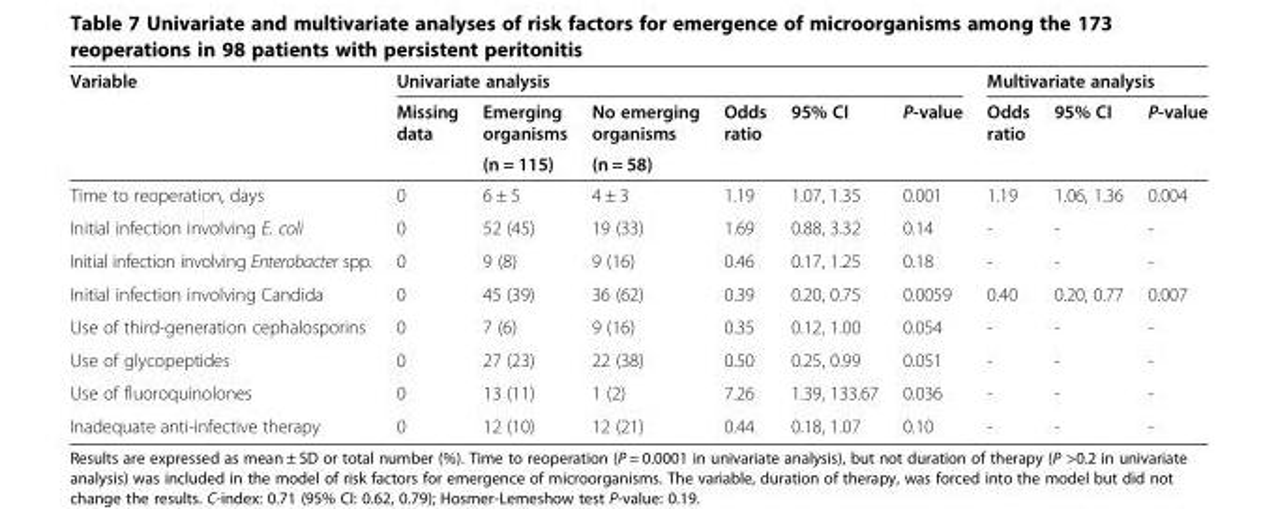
<table><thead><tr><td rowspan="3">Variable</td><td colspan="6">Univariate analysis</td><td colspan="3">Multivariate analysis</td></tr><tr><td rowspan="2">Missing data</td><td rowspan="2">Emerging organisms (n = 115)</td><td rowspan="2">No emerging organisms (n = 58)</td><td rowspan="2">Odds ratio</td><td rowspan="2">95% CI</td><td rowspan="2">P-value</td><td rowspan="2">Odds ratio</td><td rowspan="2">95% CI</td><td rowspan="2">P-value</td></tr><tr></tr></thead><tbody><tr><td>Time to reoperation, days</td><td>0</td><td>6 ± 5</td><td>4 ± 3</td><td>1.19</td><td>1.07, 1.35</td><td>0.001</td><td>1.19</td><td>1.06, 1.36</td><td>0.004</td></tr><tr><td>Initial infection involving E. coli</td><td>0</td><td>52 (45)</td><td>19 (33)</td><td>1.69</td><td>0.88, 3.32</td><td>0.14</td><td>-</td><td>-</td><td>-</td></tr><tr><td>Initial infection involving Enterobacter spp.</td><td>0</td><td>9 (8)</td><td>9 (16)</td><td>0.46</td><td>0.17, 1.25</td><td>0.18</td><td>-</td><td>-</td><td>-</td></tr><tr><td>Initial infection involving Candida</td><td>0</td><td>45 (39)</td><td>36 (62)</td><td>0.39</td><td>0.20, 0.75</td><td>0.0059</td><td>0.40</td><td>0.20, 0.77</td><td>0.007</td></tr><tr><td>Use of third-generation cephalosporins</td><td>0</td><td>7 (6)</td><td>9 (16)</td><td>0.35</td><td>0.12, 1.00</td><td>0.054</td><td>-</td><td>-</td><td>-</td></tr><tr><td>Use of glycopeptides</td><td>0</td><td>27 (23)</td><td>22 (38)</td><td>0.50</td><td>0.25, 0.99</td><td>0.051</td><td>-</td><td>-</td><td>-</td></tr><tr><td>Use of fluoroquinolones</td><td>0</td><td>13 (11)</td><td>1 (2)</td><td>7.26</td><td>1.39, 133.67</td><td>0.036</td><td>-</td><td>-</td><td>-</td></tr><tr><td>Inadequate anti-infective therapy</td><td>0</td><td>12 (10)</td><td>12 (21)</td><td>0.44</td><td>0.18, 1.07</td><td>0.10</td><td>-</td><td>-</td><td>-</td></tr></tbody></table>